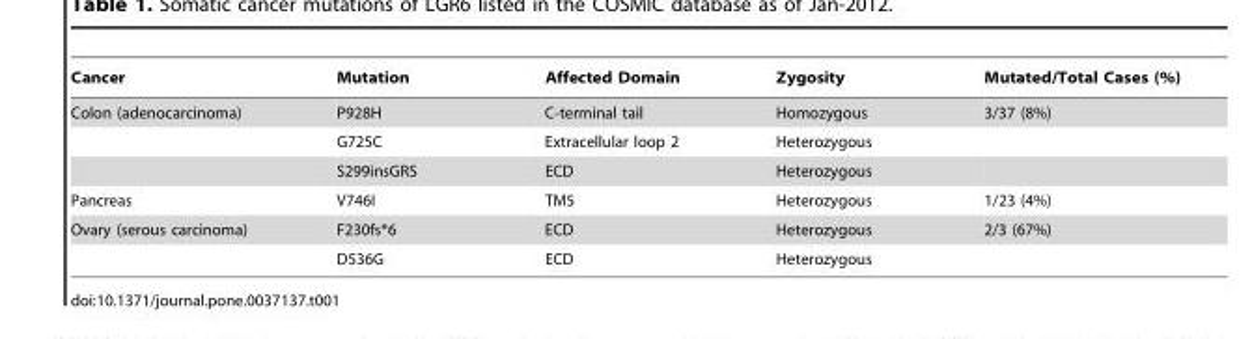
<table><thead><tr><td>Cancer</td><td>Mutation</td><td>Affected Domain</td><td>Zygosity</td><td>Mutated/Total Cases (%)</td></tr></thead><tbody><tr><td rowspan="3">Colon (adenocarcinoma)</td><td>P928H</td><td>C-terminal tail</td><td>Homozygous</td><td>3/37 (8%)</td></tr><tr><td>G725C</td><td>Extracellular loop 2</td><td>Heterozygous</td><td></td></tr><tr><td>S299insGRS</td><td>ECD</td><td>Heterozygous</td><td></td></tr><tr><td>Pancreas</td><td>V746I</td><td>TM5</td><td>Heterozygous</td><td>1/23 (4%)</td></tr><tr><td rowspan="2">Ovary (serous carcinoma)</td><td>F230fs*6</td><td>ECD</td><td>Heterozygous</td><td>2/3 (67%)</td></tr><tr><td>D536G</td><td>ECD</td><td>Heterozygous</td><td></td></tr></tbody></table>